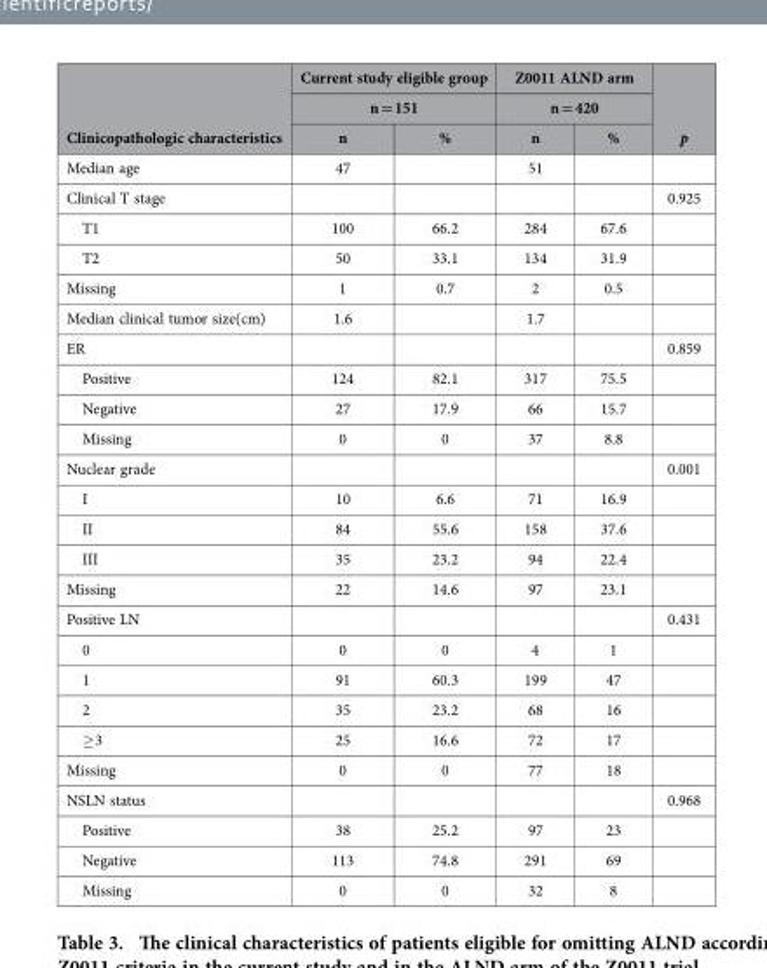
<table><thead><tr><td rowspan="3">Clinicopathologic characteristics</td><td rowspan="2" colspan="2">Current study eligible group n = 151</td><td rowspan="2" colspan="2">Z0011 ALND arm n = 420</td><td rowspan="3">p</td></tr><tr></tr><tr><td>n</td><td>%</td><td>n</td><td>%</td></tr></thead><tbody><tr><td>Median age</td><td>47</td><td></td><td>51</td><td></td><td></td></tr><tr><td>Clinical T stage</td><td></td><td></td><td></td><td></td><td>0.925</td></tr><tr><td>T1</td><td>100</td><td>66.2</td><td>284</td><td>67.6</td><td></td></tr><tr><td>T2</td><td>50</td><td>33.1</td><td>134</td><td>31.9</td><td></td></tr><tr><td>Missing</td><td>1</td><td>0.7</td><td>2</td><td>0.5</td><td></td></tr><tr><td>Median clinical tumor size(cm)</td><td>1.6</td><td></td><td>1.7</td><td></td><td></td></tr><tr><td>ER</td><td></td><td></td><td></td><td></td><td>0.859</td></tr><tr><td>Positive</td><td>124</td><td>82.1</td><td>317</td><td>75.5</td><td></td></tr><tr><td>Negative</td><td>27</td><td>17.9</td><td>66</td><td>15.7</td><td></td></tr><tr><td>Missing</td><td>0</td><td>0</td><td>37</td><td>8.8</td><td></td></tr><tr><td>Nuclear grade</td><td></td><td></td><td></td><td></td><td>0.001</td></tr><tr><td>I</td><td>10</td><td>6.6</td><td>71</td><td>16.9</td><td></td></tr><tr><td>II</td><td>84</td><td>55.6</td><td>158</td><td>37.6</td><td></td></tr><tr><td>III</td><td>35</td><td>23.2</td><td>94</td><td>22.4</td><td></td></tr><tr><td>Missing</td><td>22</td><td>14.6</td><td>97</td><td>23.1</td><td></td></tr><tr><td>Positive LN</td><td></td><td></td><td></td><td></td><td>0.431</td></tr><tr><td>0</td><td>0</td><td>0</td><td>4</td><td>1</td><td></td></tr><tr><td>1</td><td>91</td><td>60.3</td><td>199</td><td>47</td><td></td></tr><tr><td>2</td><td>35</td><td>23.2</td><td>68</td><td>16</td><td></td></tr><tr><td>≥ 3</td><td>25</td><td>16.6</td><td>72</td><td>17</td><td></td></tr><tr><td>Missing</td><td>0</td><td>0</td><td>77</td><td>18</td><td></td></tr><tr><td>NSLN status</td><td></td><td></td><td></td><td></td><td>0.968</td></tr><tr><td>Positive</td><td>38</td><td>25.2</td><td>97</td><td>23</td><td></td></tr><tr><td>Negative</td><td>113</td><td>74.8</td><td>291</td><td>69</td><td></td></tr><tr><td>Missing</td><td>0</td><td>0</td><td>32</td><td>8</td><td></td></tr></tbody></table>